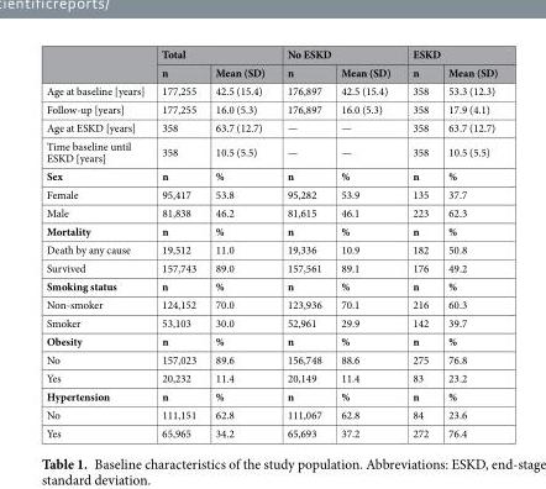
<table><thead><tr><td rowspan="2"></td><td colspan="2">Total</td><td colspan="2">No ESKD</td><td colspan="2">ESKD</td></tr><tr><td>n</td><td>Mean (SD)</td><td>n</td><td>Mean (SD)</td><td>n</td><td>Mean (SD)</td></tr></thead><tbody><tr><td>Age at baseline [years]</td><td>177,255</td><td>42.5 (15.4)</td><td>176,897</td><td>42.5 (15.4)</td><td>358</td><td>53.3 (12.3)</td></tr><tr><td>Follow-up [years]</td><td>177,255</td><td>16.0 (5.3)</td><td>176,897</td><td>16.0 (5.3)</td><td>358</td><td>17.9 (4.1)</td></tr><tr><td>Age at ESKD [years]</td><td>358</td><td>63.7 (12.7)</td><td>—</td><td>—</td><td>358</td><td>63.7 (12.7)</td></tr><tr><td>Time baseline until ESKD [years]</td><td>358</td><td>10.5 (5.5)</td><td>—</td><td>—</td><td>358</td><td>10.5 (5.5)</td></tr><tr><td>Sex</td><td>n</td><td>%</td><td>n</td><td>%</td><td>n</td><td>%</td></tr><tr><td>Female</td><td>95,417</td><td>53.8</td><td>95,282</td><td>53.9</td><td>135</td><td>37.7</td></tr><tr><td>Male</td><td>81,838</td><td>46.2</td><td>81,615</td><td>46.1</td><td>223</td><td>62.3</td></tr><tr><td>Mortality</td><td>n</td><td>%</td><td>n</td><td>%</td><td>n</td><td>%</td></tr><tr><td>Death by any cause</td><td>19,512</td><td>11.0</td><td>19,336</td><td>10.9</td><td>182</td><td>50.8</td></tr><tr><td>Survived</td><td>157,743</td><td>89.0</td><td>157,561</td><td>89.1</td><td>176</td><td>49.2</td></tr><tr><td>Smoking status</td><td>n</td><td>%</td><td>n</td><td>%</td><td>n</td><td>%</td></tr><tr><td>Non-smoker</td><td>124,152</td><td>70.0</td><td>123,936</td><td>70.1</td><td>216</td><td>60.3</td></tr><tr><td>Smoker</td><td>53,103</td><td>30.0</td><td>52,961</td><td>29.9</td><td>142</td><td>39.7</td></tr><tr><td>Obesity</td><td>n</td><td>%</td><td>n</td><td>%</td><td>n</td><td>%</td></tr><tr><td>No</td><td>157,023</td><td>89.6</td><td>156,748</td><td>88.6</td><td>275</td><td>76.8</td></tr><tr><td>Yes</td><td>20,232</td><td>11.4</td><td>20,149</td><td>11.4</td><td>83</td><td>23.2</td></tr><tr><td>Hypertension</td><td>n</td><td>%</td><td>n</td><td>%</td><td>n</td><td>%</td></tr><tr><td>No</td><td>111,151</td><td>62.8</td><td>111,067</td><td>62.8</td><td>84</td><td>23.6</td></tr><tr><td>Yes</td><td>65,965</td><td>34.2</td><td>65,693</td><td>37.2</td><td>272</td><td>76.4</td></tr></tbody></table>